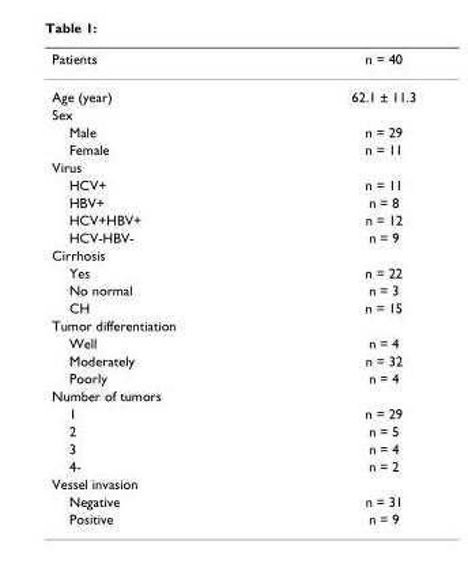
<table><thead><tr><td>Patients</td><td>n = 40</td></tr></thead><tbody><tr><td>Age (year)</td><td>62.1 ± 11.3</td></tr><tr><td colspan="2">Sex</td></tr><tr><td>Male</td><td>n = 29</td></tr><tr><td>Female</td><td>n = 11</td></tr><tr><td colspan="2">Virus</td></tr><tr><td>HCV+</td><td>n = 11</td></tr><tr><td>HBV+</td><td>n = 8</td></tr><tr><td>HCV+HBV+</td><td>n = 12</td></tr><tr><td>HCV-HBV-</td><td>n = 9</td></tr><tr><td colspan="2">Cirrhosis</td></tr><tr><td>Yes</td><td>n = 22</td></tr><tr><td>No normal</td><td>n = 3</td></tr><tr><td>CH</td><td>n = 15</td></tr><tr><td colspan="2">Tumor differentiation</td></tr><tr><td>Well</td><td>n = 4</td></tr><tr><td>Moderately</td><td>n = 32</td></tr><tr><td>Poorly</td><td>n = 4</td></tr><tr><td colspan="2">Number of tumors</td></tr><tr><td>1</td><td>n = 29</td></tr><tr><td>2</td><td>n = 5</td></tr><tr><td>3</td><td>n = 4</td></tr><tr><td>4-</td><td>n = 2</td></tr><tr><td colspan="2">Vessel invasion</td></tr><tr><td>Negative</td><td>n = 31</td></tr><tr><td>Positive</td><td>n = 9</td></tr></tbody></table>